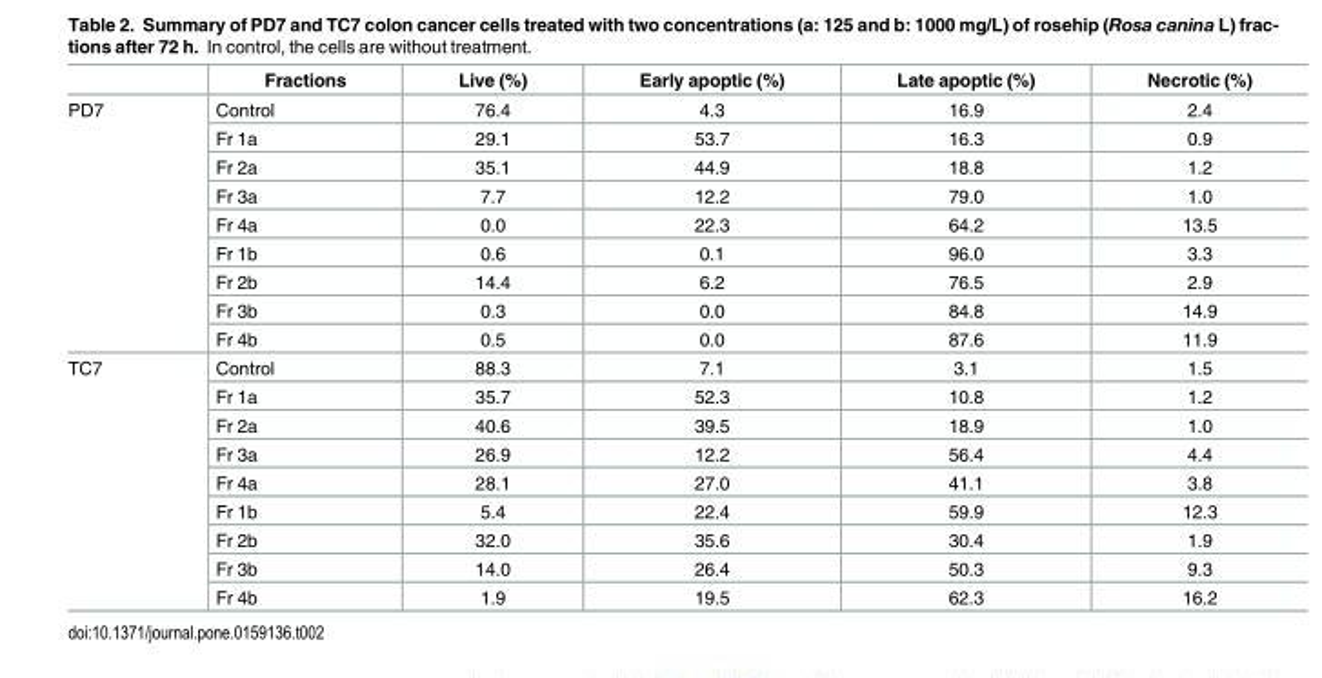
<table><thead><tr><td></td><td>Fractions</td><td>Live (%)</td><td>Early apoptic (%)</td><td>Late apoptic (%)</td><td>Necrotic (%)</td></tr></thead><tbody><tr><td rowspan="9">PD7</td><td>Control</td><td>76.4</td><td>4.3</td><td>16.9</td><td>2.4</td></tr><tr><td>Fr 1a</td><td>29.1</td><td>53.7</td><td>16.3</td><td>0.9</td></tr><tr><td>Fr 2a</td><td>35.1</td><td>44.9</td><td>18.8</td><td>1.2</td></tr><tr><td>Fr 3a</td><td>7.7</td><td>12.2</td><td>79.0</td><td>1.0</td></tr><tr><td>Fr 4a</td><td>0.0</td><td>22.3</td><td>64.2</td><td>13.5</td></tr><tr><td>Fr 1b</td><td>0.6</td><td>0.1</td><td>96.0</td><td>3.3</td></tr><tr><td>Fr 2b</td><td>14.4</td><td>6.2</td><td>76.5</td><td>2.9</td></tr><tr><td>Fr 3b</td><td>0.3</td><td>0.0</td><td>84.8</td><td>14.9</td></tr><tr><td>Fr 4b</td><td>0.5</td><td>0.0</td><td>87.6</td><td>11.9</td></tr><tr><td rowspan="9">TC7</td><td>Control</td><td>88.3</td><td>7.1</td><td>3.1</td><td>1.5</td></tr><tr><td>Fr 1a</td><td>35.7</td><td>52.3</td><td>10.8</td><td>1.2</td></tr><tr><td>Fr 2a</td><td>40.6</td><td>39.5</td><td>18.9</td><td>1.0</td></tr><tr><td>Fr 3a</td><td>26.9</td><td>12.2</td><td>56.4</td><td>4.4</td></tr><tr><td>Fr 4a</td><td>28.1</td><td>27.0</td><td>41.1</td><td>3.8</td></tr><tr><td>Fr 1b</td><td>5.4</td><td>22.4</td><td>59.9</td><td>12.3</td></tr><tr><td>Fr 2b</td><td>32.0</td><td>35.6</td><td>30.4</td><td>1.9</td></tr><tr><td>Fr 3b</td><td>14.0</td><td>26.4</td><td>50.3</td><td>9.3</td></tr><tr><td>Fr 4b</td><td>1.9</td><td>19.5</td><td>62.3</td><td>16.2</td></tr></tbody></table>